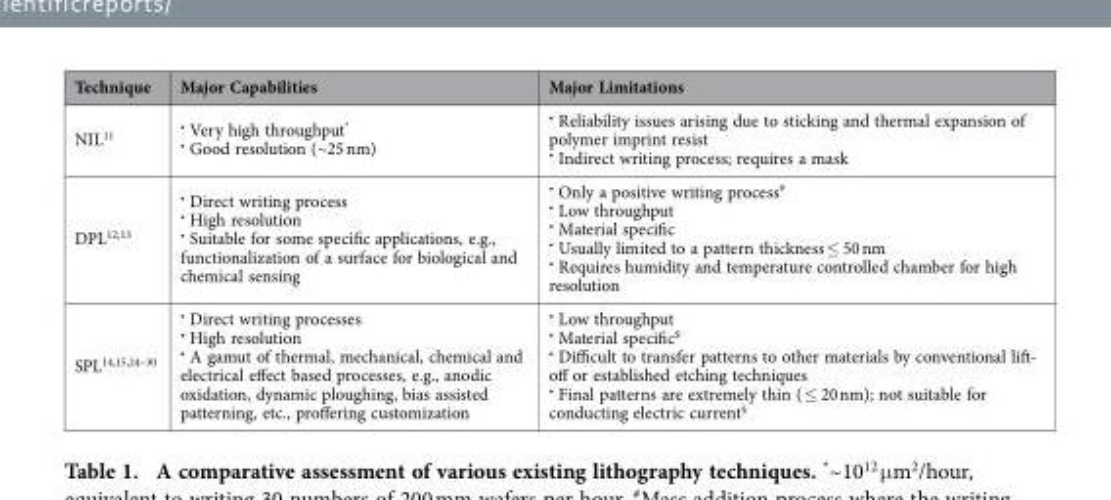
<table><thead><tr><td>Technique</td><td>Major Capabilities</td><td>Major Limitations</td></tr></thead><tbody><tr><td>NIL<sup>11</sup></td><td><sup>•</sup> Very high throughput* <sup>•</sup> Good resolution (~25 nm)</td><td><sup>•</sup> Reliability issues arising due to sticking and thermal expansion of polymer imprint resist <sup>•</sup> Indirect writing process; requires a mask</td></tr><tr><td>DPL<sup>12</sup>,<sup>13</sup></td><td><sup>•</sup> Direct writing process <sup>•</sup> High resolution <sup>•</sup> Suitable for some specific applications, e.g., functionalization of a surface for biological and chemical sensing</td><td><sup>•</sup> Only a positive writing process# <sup>•</sup> Low throughput <sup>•</sup> Material specific <sup>•</sup> Usually limited to a pattern thickness ≤ 50 nm <sup>•</sup> Requires humidity and temperature controlled chamber for high resolution</td></tr><tr><td>SPL14,15,24–30</td><td><sup>•</sup> Direct writing processes <sup>•</sup> High resolution <sup>•</sup> A gamut of thermal, mechanical, chemical and electrical effect based processes, e.g., anodic oxidation, dynamic ploughing, bias assisted patterning, etc., proffering customization</td><td><sup>•</sup> Low throughput <sup>•</sup> Material specific$ <sup>•</sup> Difficult to transfer patterns to other materials by conventional lift- off or established etching techniques <sup>•</sup> Final patterns are extremely thin ( ≤ 20 nm); not suitable for conducting electric current§</td></tr></tbody></table>